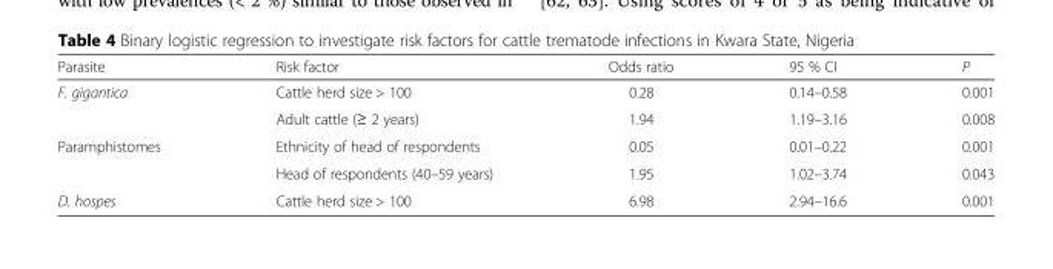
<table><thead><tr><td>Parasite</td><td>Risk factor</td><td>Odds ratio</td><td>95 % CI</td><td>P</td></tr></thead><tbody><tr><td rowspan="2">F. gigantica</td><td>Cattle herd size &gt; 100</td><td>0.28</td><td>0.14–0.58</td><td>0.001</td></tr><tr><td>Adult cattle (≥ 2 years)</td><td>1.94</td><td>1.19–3.16</td><td>0.008</td></tr><tr><td rowspan="2">Paramphistomes</td><td>Ethnicity of head of respondents</td><td>0.05</td><td>0.01–0.22</td><td>0.001</td></tr><tr><td>Head of respondents (40–59 years)</td><td>1.95</td><td>1.02–3.74</td><td>0.043</td></tr><tr><td>D. hospes</td><td>Cattle herd size &gt; 100</td><td>6.98</td><td>2.94–16.6</td><td>0.001</td></tr></tbody></table>